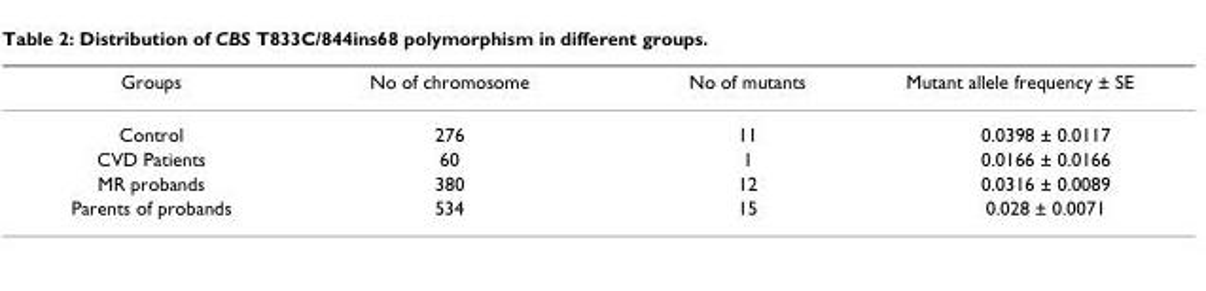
<table><thead><tr><td>Groups</td><td>No of chromosome</td><td>No of mutants</td><td>Mutant allele frequency ± SE</td></tr></thead><tbody><tr><td>Control</td><td>276</td><td>11</td><td>0.0398 ± 0.0117</td></tr><tr><td>CVD Patients</td><td>60</td><td>1</td><td>0.0166 ± 0.0166</td></tr><tr><td>MR probands</td><td>380</td><td>12</td><td>0.0316 ± 0.0089</td></tr><tr><td>Parents of probands</td><td>534</td><td>15</td><td>0.028 ± 0.0071</td></tr></tbody></table>